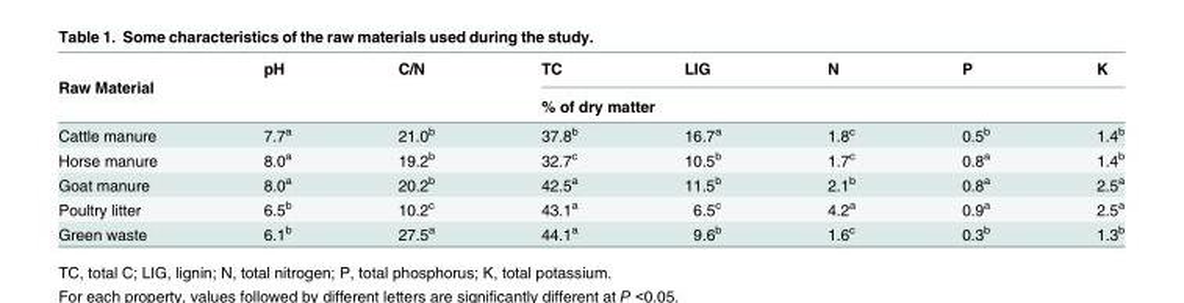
<table><thead><tr><td rowspan="2">Raw Material</td><td rowspan="2">pH</td><td rowspan="2">C/N</td><td>TC</td><td>LIG</td><td>N</td><td>P</td><td>K</td></tr><tr><td colspan="5">% of dry matter</td></tr></thead><tbody><tr><td>Cattle manure</td><td>7.7<sup>a</sup></td><td>21.0<sup>b</sup></td><td>37.8<sup>b</sup></td><td>16.7<sup>a</sup></td><td>1.8<sup>c</sup></td><td>0.5<sup>b</sup></td><td>1.4<sup>b</sup></td></tr><tr><td>Horse manure</td><td>8.0<sup>a</sup></td><td>19.2<sup>b</sup></td><td>32.7<sup>c</sup></td><td>10.5<sup>b</sup></td><td>1.7<sup>c</sup></td><td>0.8<sup>a</sup></td><td>1.4<sup>b</sup></td></tr><tr><td>Goat manure</td><td>8.0<sup>a</sup></td><td>20.2<sup>b</sup></td><td>42.5<sup>a</sup></td><td>11.5<sup>b</sup></td><td>2.1<sup>b</sup></td><td>0.8<sup>a</sup></td><td>2.5<sup>a</sup></td></tr><tr><td>Poultry litter</td><td>6.5<sup>b</sup></td><td>10.2<sup>c</sup></td><td>43.1<sup>a</sup></td><td>6.5<sup>c</sup></td><td>4.2<sup>a</sup></td><td>0.9<sup>a</sup></td><td>2.5<sup>a</sup></td></tr><tr><td>Green waste</td><td>6.1<sup>b</sup></td><td>27.5<sup>a</sup></td><td>44.1<sup>a</sup></td><td>9.6<sup>b</sup></td><td>1.6<sup>c</sup></td><td>0.3<sup>b</sup></td><td>1.3<sup>b</sup></td></tr></tbody></table>